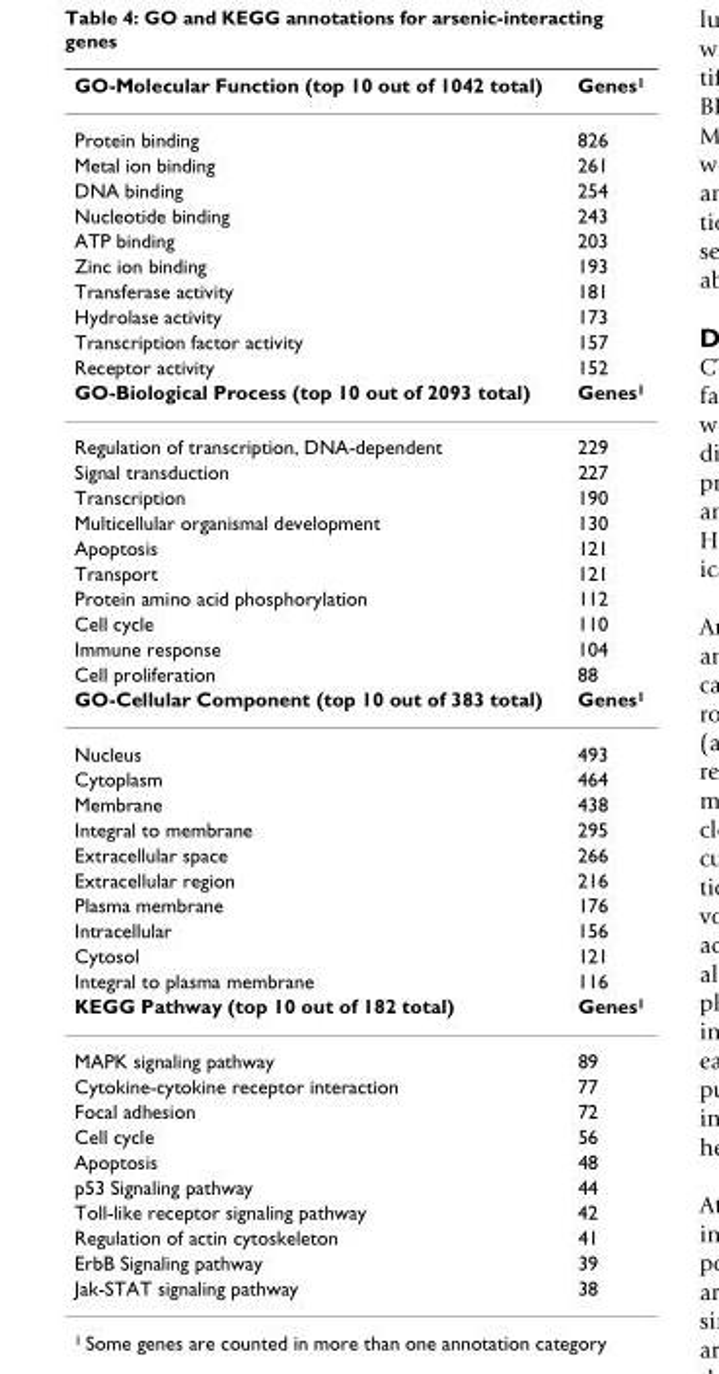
<table><thead><tr><td>GO-Molecular Function (top 10 out of 1042 total)</td><td>Genes<sup>1</sup></td></tr></thead><tbody><tr><td>Protein binding</td><td>826</td></tr><tr><td>Metal ion binding</td><td>261</td></tr><tr><td>DNA binding</td><td>254</td></tr><tr><td>Nucleotide binding</td><td>243</td></tr><tr><td>ATP binding</td><td>203</td></tr><tr><td>Zinc ion binding</td><td>193</td></tr><tr><td>Transferase activity</td><td>181</td></tr><tr><td>Hydrolase activity</td><td>173</td></tr><tr><td>Transcription factor activity</td><td>157</td></tr><tr><td>Receptor activity</td><td>152</td></tr><tr><td>GO-Biological Process (top 10 out of 2093 total)</td><td>Genes<sup>1</sup></td></tr><tr><td>Regulation of transcription, DNA-dependent</td><td>229</td></tr><tr><td>Signal transduction</td><td>227</td></tr><tr><td>Transcription</td><td>190</td></tr><tr><td>Multicellular organismal development</td><td>130</td></tr><tr><td>Apoptosis</td><td>121</td></tr><tr><td>Transport</td><td>121</td></tr><tr><td>Protein amino acid phosphorylation</td><td>112</td></tr><tr><td>Cell cycle</td><td>110</td></tr><tr><td>Immune response</td><td>104</td></tr><tr><td>Cell proliferation</td><td>88</td></tr><tr><td>GO-Cellular Component (top 10 out of 383 total)</td><td>Genes<sup>1</sup></td></tr><tr><td>Nucleus</td><td>493</td></tr><tr><td>Cytoplasm</td><td>464</td></tr><tr><td>Membrane</td><td>438</td></tr><tr><td>Integral to membrane</td><td>295</td></tr><tr><td>Extracellular space</td><td>266</td></tr><tr><td>Extracellular region</td><td>216</td></tr><tr><td>Plasma membrane</td><td>176</td></tr><tr><td>Intracellular</td><td>156</td></tr><tr><td>Cytosol</td><td>121</td></tr><tr><td>Integral to plasma membrane</td><td>116</td></tr><tr><td>KEGG Pathway (top 10 out of 182 total)</td><td>Genes<sup>1</sup></td></tr><tr><td>MAPK signaling pathway</td><td>89</td></tr><tr><td>Cytokine-cytokine receptor interaction</td><td>77</td></tr><tr><td>Focal adhesion</td><td>72</td></tr><tr><td>Cell cycle</td><td>56</td></tr><tr><td>Apoptosis</td><td>48</td></tr><tr><td>p53 Signaling pathway</td><td>44</td></tr><tr><td>Toll-like receptor signaling pathway</td><td>42</td></tr><tr><td>Regulation of actin cytoskeleton</td><td>41</td></tr><tr><td>ErbB Signaling pathway</td><td>39</td></tr><tr><td>Jak-STAT signaling pathway</td><td>38</td></tr></tbody></table>